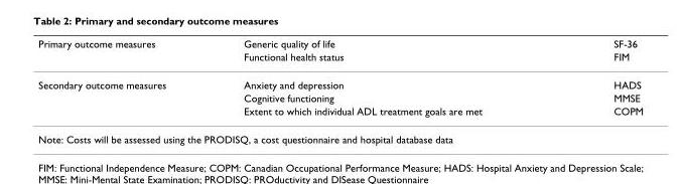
<table><thead><tr><td rowspan="2">Primary outcome measures</td><td rowspan="2">Generic quality of life Functional health status</td><td rowspan="2">SF-36 FIM</td></tr><tr></tr></thead><tbody><tr><td rowspan="3">Secondary outcome measures</td><td>Anxiety and depression</td><td>HADS</td></tr><tr><td>Cognitive functioning</td><td>MMSE</td></tr><tr><td>Extent to which individual ADL treatment goals are met</td><td>COPM</td></tr><tr><td colspan="3">Note: Costs will be assessed using the PRODISQ, a cost questionnaire and hospital database data</td></tr></tbody></table>